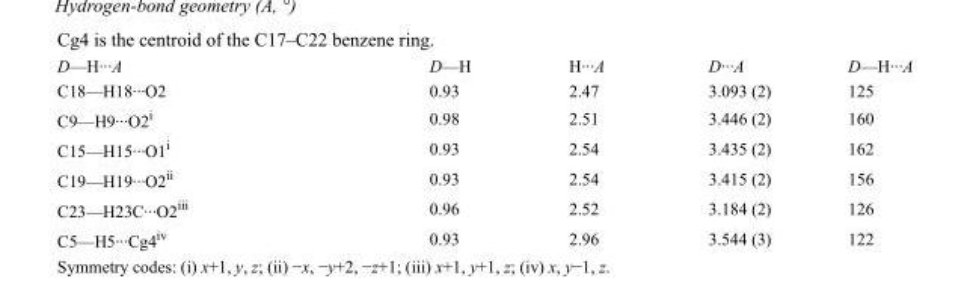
<table><tbody><tr><td>D—H···A</td><td>D—H</td><td>H···A</td><td>D···A</td><td>D—H···A</td></tr><tr><td>C18—H18···O2</td><td>0.93</td><td>2.47</td><td>3.093 (2)</td><td>125</td></tr><tr><td>C9—H9···O2<sup>i</sup></td><td>0.98</td><td>2.51</td><td>3.446 (2)</td><td>160</td></tr><tr><td>C15—H15···O1<sup>i</sup></td><td>0.93</td><td>2.54</td><td>3.435 (2)</td><td>162</td></tr><tr><td>C19—H19···O2<sup>ii</sup></td><td>0.93</td><td>2.54</td><td>3.415 (2)</td><td>156</td></tr><tr><td>C23—H23C···O2<sup>iii</sup></td><td>0.96</td><td>2.52</td><td>3.184 (2)</td><td>126</td></tr><tr><td>C5—H5···Cg4<sup>iv</sup></td><td>0.93</td><td>2.96</td><td>3.544 (3)</td><td>122</td></tr></tbody></table>